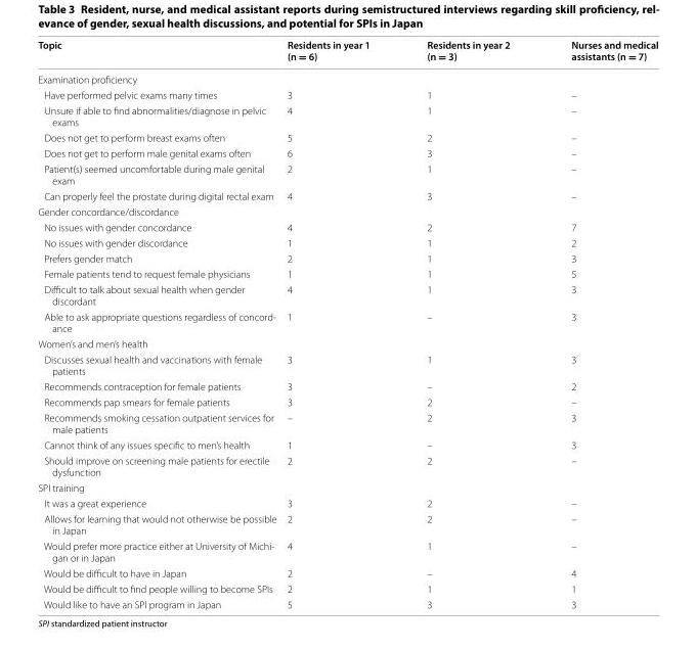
<table><thead><tr><td>Topic</td><td>Residents in year 1 (n = 6)</td><td>Residents in year 2 (n = 3)</td><td>Nurses and medical assistants (n = 7)</td></tr></thead><tbody><tr><td colspan="4">Examination proficiency</td></tr><tr><td>Have performed pelvic exams many times</td><td>3</td><td>1</td><td>–</td></tr><tr><td>Unsure if able to find abnormalities/diagnose in pelvic exams</td><td>4</td><td>1</td><td>–</td></tr><tr><td>Does not get to perform breast exams often</td><td>5</td><td>2</td><td>–</td></tr><tr><td>Does not get to perform male genital exams often</td><td>6</td><td>3</td><td>–</td></tr><tr><td>Patient(s) seemed uncomfortable during male genital exam</td><td>2</td><td>1</td><td>–</td></tr><tr><td>Can properly feel the prostate during digital rectal exam</td><td>4</td><td>3</td><td>–</td></tr><tr><td colspan="4">Gender concordance/discordance</td></tr><tr><td>No issues with gender concordance</td><td>4</td><td>2</td><td>7</td></tr><tr><td>No issues with gender discordance</td><td>1</td><td>1</td><td>2</td></tr><tr><td>Prefers gender match</td><td>2</td><td>1</td><td>3</td></tr><tr><td>Female patients tend to request female physicians</td><td>1</td><td>1</td><td>5</td></tr><tr><td>Difficult to talk about sexual health when gender discordant</td><td>4</td><td>1</td><td>3</td></tr><tr><td>Able to ask appropriate questions regardless of concord- ance</td><td>1</td><td>–</td><td>3</td></tr><tr><td colspan="4">Women’s and men’s health</td></tr><tr><td>Discusses sexual health and vaccinations with female patients</td><td>3</td><td>1</td><td>3</td></tr><tr><td>Recommends contraception for female patients</td><td>3</td><td>–</td><td>2</td></tr><tr><td>Recommends pap smears for female patients</td><td>3</td><td>2</td><td>–</td></tr><tr><td>Recommends smoking cessation outpatient services for male patients</td><td>–</td><td>2</td><td>3</td></tr><tr><td>Cannot think of any issues specific to men’s health</td><td>1</td><td>–</td><td>3</td></tr><tr><td>Should improve on screening male patients for erectile dysfunction</td><td>2</td><td>2</td><td>–</td></tr><tr><td colspan="4">SPI training</td></tr><tr><td>It was a great experience</td><td>3</td><td>2</td><td>–</td></tr><tr><td>Allows for learning that would not otherwise be possible in Japan</td><td>2</td><td>2</td><td>–</td></tr><tr><td>Would prefer more practice either at University of Michi- gan or in Japan</td><td>4</td><td>1</td><td>–</td></tr><tr><td>Would be difficult to have in Japan</td><td>2</td><td>–</td><td>4</td></tr><tr><td>Would be difficult to find people willing to become SPIs</td><td>2</td><td>1</td><td>1</td></tr><tr><td>Would like to have an SPI program in Japan</td><td>5</td><td>3</td><td>3</td></tr></tbody></table>